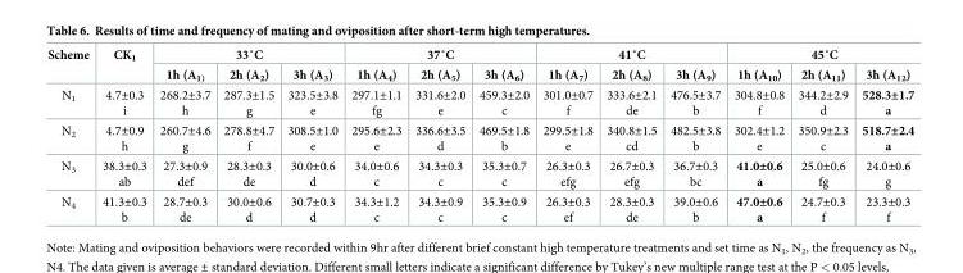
<table><thead><tr><td rowspan="2">Scheme</td><td rowspan="2">CK<sub>1</sub></td><td colspan="3">33˚C</td><td colspan="3">37˚C</td><td colspan="3">41˚C</td><td colspan="3">45˚C</td></tr><tr><td>1h (A<sub>1)</sub></td><td>2h (A<sub>2</sub>)</td><td>3h (A<sub>3</sub>)</td><td>1h (A<sub>4</sub>)</td><td>2h (A<sub>5</sub>)</td><td>3h (A<sub>6</sub>)</td><td>1h (A<sub>7</sub>)</td><td>2h (A<sub>8</sub>)</td><td>3h (A<sub>9</sub>)</td><td>1h (A<sub>10</sub>)</td><td>2h (A<sub>11</sub>)</td><td>3h (A<sub>12</sub>)</td></tr></thead><tbody><tr><td>N<sub>1</sub></td><td>4.7±0.3 i</td><td>268.2±3.7 h</td><td>287.3±1.5 g</td><td>323.5±3.8 e</td><td>297.1±1.1 fg</td><td>331.6±2.0 e</td><td>459.3±2.0 c</td><td>301.0±0.7 f</td><td>333.6±2.1 de</td><td>476.5±3.7 b</td><td>304.8±0.8 f</td><td>344.2±2.9 d</td><td>528.3±1.7 a</td></tr><tr><td>N<sub>2</sub></td><td>4.7±0.9 h</td><td>260.7±4.6 g</td><td>278.8±4.7 f</td><td>308.5±1.0 e</td><td>295.6±2.3 e</td><td>336.6±3.5 d</td><td>469.5±1.8 b</td><td>299.5±1.8 e</td><td>340.8±1.5 cd</td><td>482.5±3.8 b</td><td>302.4±1.2 e</td><td>350.9±2.3 c</td><td>518.7±2.4 a</td></tr><tr><td>N<sub>3</sub></td><td>38.3±0.3 ab</td><td>27.3±0.9 def</td><td>28.3±0.3 de</td><td>30.0±0.6 d</td><td>34.0±0.6 c</td><td>34.3±0.3 c</td><td>35.3±0.7 c</td><td>26.3±0.3 efg</td><td>26.7±0.3 efg</td><td>36.7±0.3 bc</td><td>41.0±0.6 a</td><td>25.0±0.6 fg</td><td>24.0±0.6 g</td></tr><tr><td>N<sub>4</sub></td><td>41.3±0.3 b</td><td>28.7±0.3 de</td><td>30.0±0.6 d</td><td>30.7±0.3 d</td><td>34.3±1.2 c</td><td>34.3±0.9 c</td><td>35.3±0.9 c</td><td>26.3±0.3 ef</td><td>28.3±0.3 de</td><td>39.0±0.6 b</td><td>47.0±0.6 a</td><td>24.7±0.3 f</td><td>23.3±0.3 f</td></tr></tbody></table>